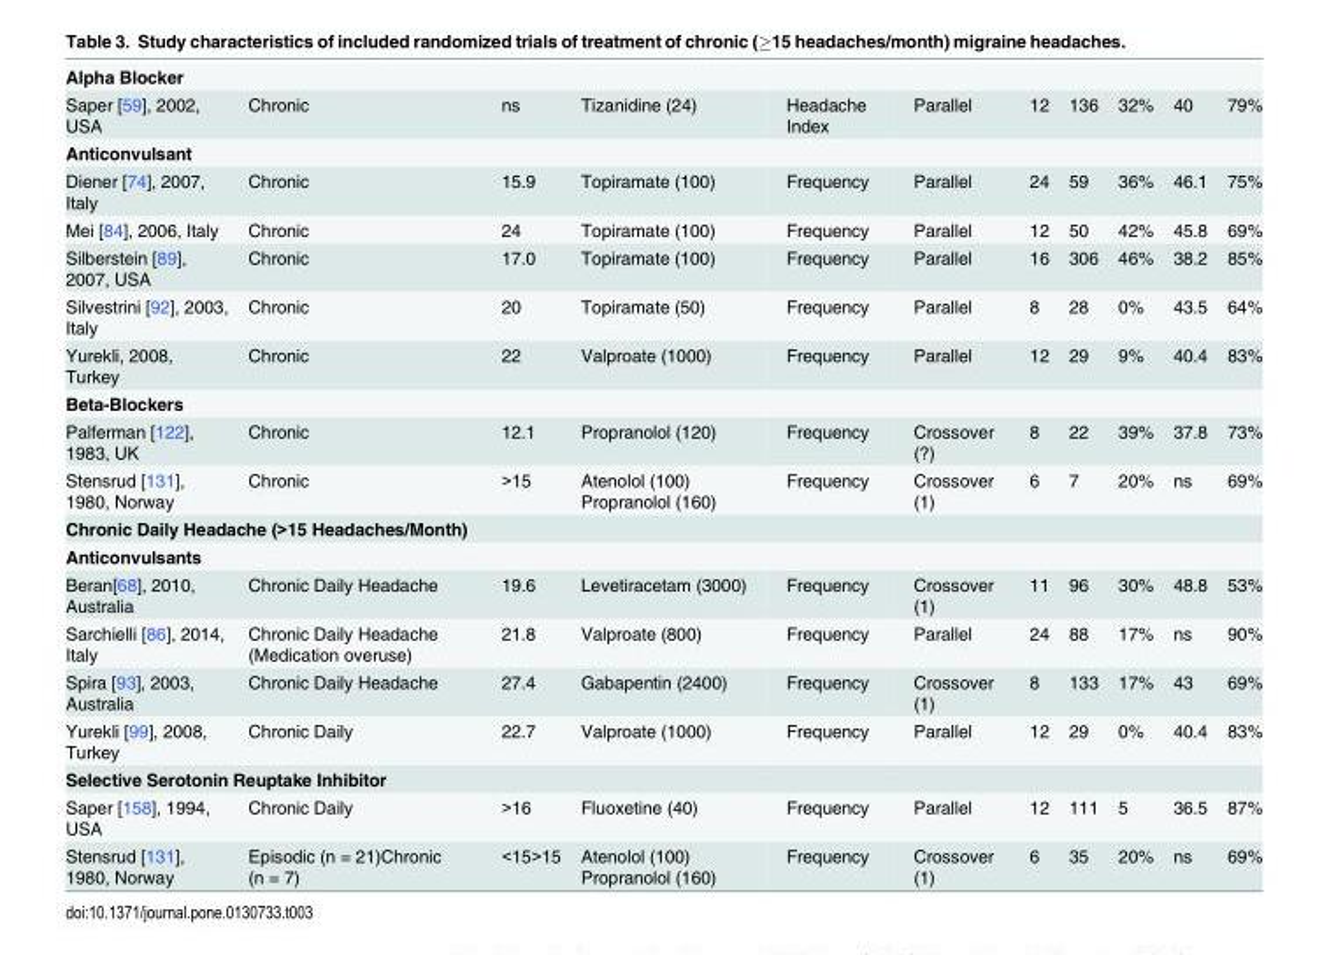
<table><tbody><tr><td colspan="11">Alpha Blocker</td></tr><tr><td>Saper [59], 2002, USA</td><td>Chronic</td><td>ns</td><td>Tizanidine (24)</td><td>Headache Index</td><td>Parallel</td><td>12</td><td>136</td><td>32%</td><td>40</td><td>79%</td></tr><tr><td colspan="11">Anticonvulsant</td></tr><tr><td>Diener [74], 2007, Italy</td><td>Chronic</td><td>15.9</td><td>Topiramate (100)</td><td>Frequency</td><td>Parallel</td><td>24</td><td>59</td><td>36%</td><td>46.1</td><td>75%</td></tr><tr><td>Mei [84], 2006, Italy</td><td>Chronic</td><td>24</td><td>Topiramate (100)</td><td>Frequency</td><td>Parallel</td><td>12</td><td>50</td><td>42%</td><td>45.8</td><td>69%</td></tr><tr><td>Silberstein [89], 2007, USA</td><td>Chronic</td><td>17.0</td><td>Topiramate (100)</td><td>Frequency</td><td>Parallel</td><td>16</td><td>306</td><td>46%</td><td>38.2</td><td>85%</td></tr><tr><td>Silvestrini [92], 2003, Italy</td><td>Chronic</td><td>20</td><td>Topiramate (50)</td><td>Frequency</td><td>Parallel</td><td>8</td><td>28</td><td>0%</td><td>43.5</td><td>64%</td></tr><tr><td>Yurekli, 2008, Turkey</td><td>Chronic</td><td>22</td><td>Valproate (1000)</td><td>Frequency</td><td>Parallel</td><td>12</td><td>29</td><td>9%</td><td>40.4</td><td>83%</td></tr><tr><td colspan="11">Beta-Blockers</td></tr><tr><td>Palferman [122], 1983, UK</td><td>Chronic</td><td>12.1</td><td>Propranolol (120)</td><td>Frequency</td><td>Crossover (?)</td><td>8</td><td>22</td><td>39%</td><td>37.8</td><td>73%</td></tr><tr><td>Stensrud [131], 1980, Norway</td><td>Chronic</td><td>&gt;15</td><td>Atenolol (100) Propranolol (160)</td><td>Frequency</td><td>Crossover (1)</td><td>6</td><td>7</td><td>20%</td><td>ns</td><td>69%</td></tr><tr><td colspan="11">Chronic Daily Headache (&gt;15 Headaches/Month)</td></tr><tr><td colspan="11">Anticonvulsants</td></tr><tr><td>Beran[68], 2010, Australia</td><td>Chronic Daily Headache</td><td>19.6</td><td>Levetiracetam (3000)</td><td>Frequency</td><td>Crossover (1)</td><td>11</td><td>96</td><td>30%</td><td>48.8</td><td>53%</td></tr><tr><td>Sarchielli [86], 2014, Italy</td><td>Chronic Daily Headache (Medication overuse)</td><td>21.8</td><td>Valproate (800)</td><td>Frequency</td><td>Parallel</td><td>24</td><td>88</td><td>17%</td><td>ns</td><td>90%</td></tr><tr><td>Spira [93], 2003, Australia</td><td>Chronic Daily Headache</td><td>27.4</td><td>Gabapentin (2400)</td><td>Frequency</td><td>Crossover (1)</td><td>8</td><td>133</td><td>17%</td><td>43</td><td>69%</td></tr><tr><td>Yurekli [99], 2008, Turkey</td><td>Chronic Daily</td><td>22.7</td><td>Valproate (1000)</td><td>Frequency</td><td>Parallel</td><td>12</td><td>29</td><td>0%</td><td>40.4</td><td>83%</td></tr><tr><td colspan="11">Selective Serotonin Reuptake Inhibitor</td></tr><tr><td>Saper [158], 1994, USA</td><td>Chronic Daily</td><td>&gt;16</td><td>Fluoxetine (40)</td><td>Frequency</td><td>Parallel</td><td>12</td><td>111</td><td>5</td><td>36.5</td><td>87%</td></tr><tr><td>Stensrud [131], 1980, Norway</td><td>Episodic (n = 21)Chronic (n = 7)</td><td>&lt;15&gt;15</td><td>Atenolol (100) Propranolol (160)</td><td>Frequency</td><td>Crossover (1)</td><td>6</td><td>35</td><td>20%</td><td>ns</td><td>69%</td></tr></tbody></table>